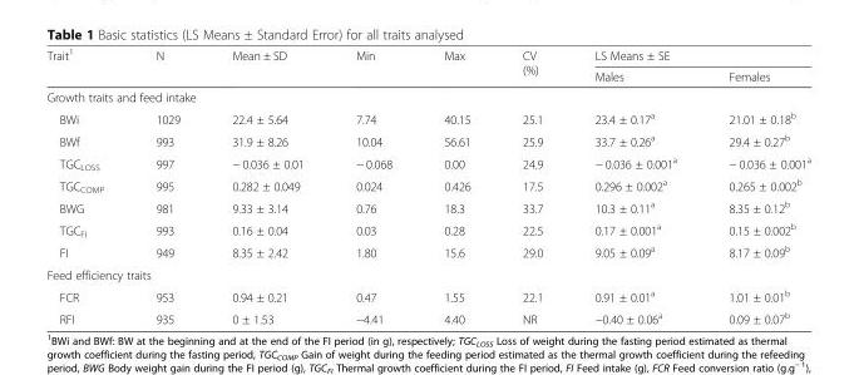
<table><thead><tr><td rowspan="2">Trait<sup>1</sup></td><td rowspan="2">N</td><td rowspan="2">Mean ± SD</td><td rowspan="2">Min</td><td rowspan="2">Max</td><td rowspan="2">CV (%)</td><td colspan="2">LS Means ± SE</td></tr><tr><td>Males</td><td>Females</td></tr></thead><tbody><tr><td colspan="8">Growth traits and feed intake</td></tr><tr><td>BWi</td><td>1029</td><td>22.4 ± 5.64</td><td>7.74</td><td>40.15</td><td>25.1</td><td>23.4 ± 0.17<sup>a</sup></td><td>21.01 ± 0.18<sup>b</sup></td></tr><tr><td>BWf</td><td>993</td><td>31.9 ± 8.26</td><td>10.04</td><td>56.61</td><td>25.9</td><td>33.7 ± 0.26<sup>a</sup></td><td>29.4 ± 0.27<sup>b</sup></td></tr><tr><td>TGC<sub>LOSS</sub></td><td>997</td><td>− 0.036 ± 0.01</td><td>− 0.068</td><td>0.00</td><td>24.9</td><td>− 0.036 ± 0.001<sup>a</sup></td><td>− 0.036 ± 0.001<sup>a</sup></td></tr><tr><td>TGC<sub>COMP</sub></td><td>995</td><td>0.282 ± 0.049</td><td>0.024</td><td>0.426</td><td>17.5</td><td>0.296 ± 0.002<sup>a</sup></td><td>0.265 ± 0.002<sup>b</sup></td></tr><tr><td>BWG</td><td>981</td><td>9.33 ± 3.14</td><td>0.76</td><td>18.3</td><td>33.7</td><td>10.3 ± 0.11<sup>a</sup></td><td>8.35 ± 0.12<sup>b</sup></td></tr><tr><td>TGC<sub>FI</sub></td><td>993</td><td>0.16 ± 0.04</td><td>0.03</td><td>0.28</td><td>22.5</td><td>0.17 ± 0.001<sup>a</sup></td><td>0.15 ± 0.002<sup>b</sup></td></tr><tr><td>FI</td><td>949</td><td>8.35 ± 2.42</td><td>1.80</td><td>15.6</td><td>29.0</td><td>9.05 ± 0.09<sup>a</sup></td><td>8.17 ± 0.09<sup>b</sup></td></tr><tr><td colspan="8">Feed efficiency traits</td></tr><tr><td>FCR</td><td>953</td><td>0.94 ± 0.21</td><td>0.47</td><td>1.55</td><td>22.1</td><td>0.91 ± 0.01<sup>a</sup></td><td>1.01 ± 0.01<sup>b</sup></td></tr><tr><td>RFI</td><td>935</td><td>0 ± 1.53</td><td>−4.41</td><td>4.40</td><td>NR</td><td>−0.40 ± 0.06<sup>a</sup></td><td>0.09 ± 0.07<sup>b</sup></td></tr></tbody></table>